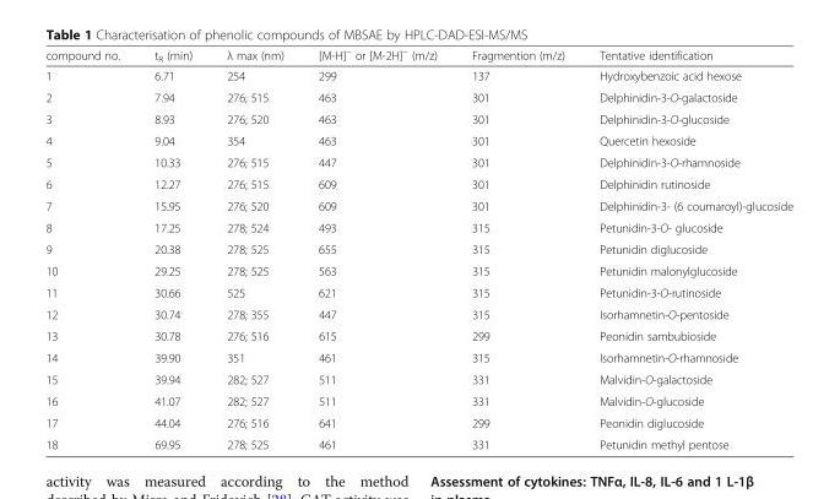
<table><thead><tr><td>compound no.</td><td>t<sub>R</sub> (min)</td><td>λ max (nm)</td><td>[M-H]<sup>−</sup> or [M-2H]<sup>−</sup> (m/z)</td><td>Fragmention (m/z)</td><td>Tentative identification</td></tr></thead><tbody><tr><td>1</td><td>6.71</td><td>254</td><td>299</td><td>137</td><td>Hydroxybenzoic acid hexose</td></tr><tr><td>2</td><td>7.94</td><td>276; 515</td><td>463</td><td>301</td><td>Delphinidin-3-O-galactoside</td></tr><tr><td>3</td><td>8.93</td><td>276; 520</td><td>463</td><td>301</td><td>Delphinidin-3-O-glucoside</td></tr><tr><td>4</td><td>9.04</td><td>354</td><td>463</td><td>301</td><td>Quercetin hexoside</td></tr><tr><td>5</td><td>10.33</td><td>276; 515</td><td>447</td><td>301</td><td>Delphinidin-3-O-rhamnoside</td></tr><tr><td>6</td><td>12.27</td><td>276; 515</td><td>609</td><td>301</td><td>Delphinidin rutinoside</td></tr><tr><td>7</td><td>15.95</td><td>276; 520</td><td>609</td><td>301</td><td>Delphinidin-3- (6 coumaroyl)-glucoside</td></tr><tr><td>8</td><td>17.25</td><td>278; 524</td><td>493</td><td>315</td><td>Petunidin-3-O- glucoside</td></tr><tr><td>9</td><td>20.38</td><td>278; 525</td><td>655</td><td>315</td><td>Petunidin diglucoside</td></tr><tr><td>10</td><td>29.25</td><td>278; 525</td><td>563</td><td>315</td><td>Petunidin malonylglucoside</td></tr><tr><td>11</td><td>30.66</td><td>525</td><td>621</td><td>315</td><td>Petunidin-3-O-rutinoside</td></tr><tr><td>12</td><td>30.74</td><td>278; 355</td><td>447</td><td>315</td><td>Isorhamnetin-O-pentoside</td></tr><tr><td>13</td><td>30.78</td><td>276; 516</td><td>615</td><td>299</td><td>Peonidin sambubioside</td></tr><tr><td>14</td><td>39.90</td><td>351</td><td>461</td><td>315</td><td>Isorhamnetin-O-rhamnoside</td></tr><tr><td>15</td><td>39.94</td><td>282; 527</td><td>511</td><td>331</td><td>Malvidin-O-galactoside</td></tr><tr><td>16</td><td>41.07</td><td>282; 527</td><td>511</td><td>331</td><td>Malvidin-O-glucoside</td></tr><tr><td>17</td><td>44.04</td><td>276; 516</td><td>641</td><td>299</td><td>Peonidin diglucoside</td></tr><tr><td>18</td><td>69.95</td><td>278; 525</td><td>461</td><td>331</td><td>Petunidin methyl pentose</td></tr></tbody></table>